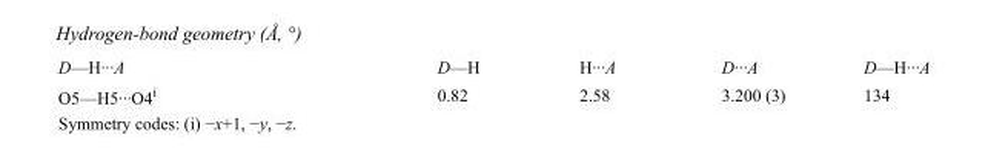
<table><tbody><tr><td>D—H···A</td><td>D—H</td><td>H···A</td><td>D···A</td><td>D—H···A</td></tr><tr><td>O5—H5···O4<sup>i</sup></td><td>0.82</td><td>2.58</td><td>3.200 (3)</td><td>134</td></tr></tbody></table>